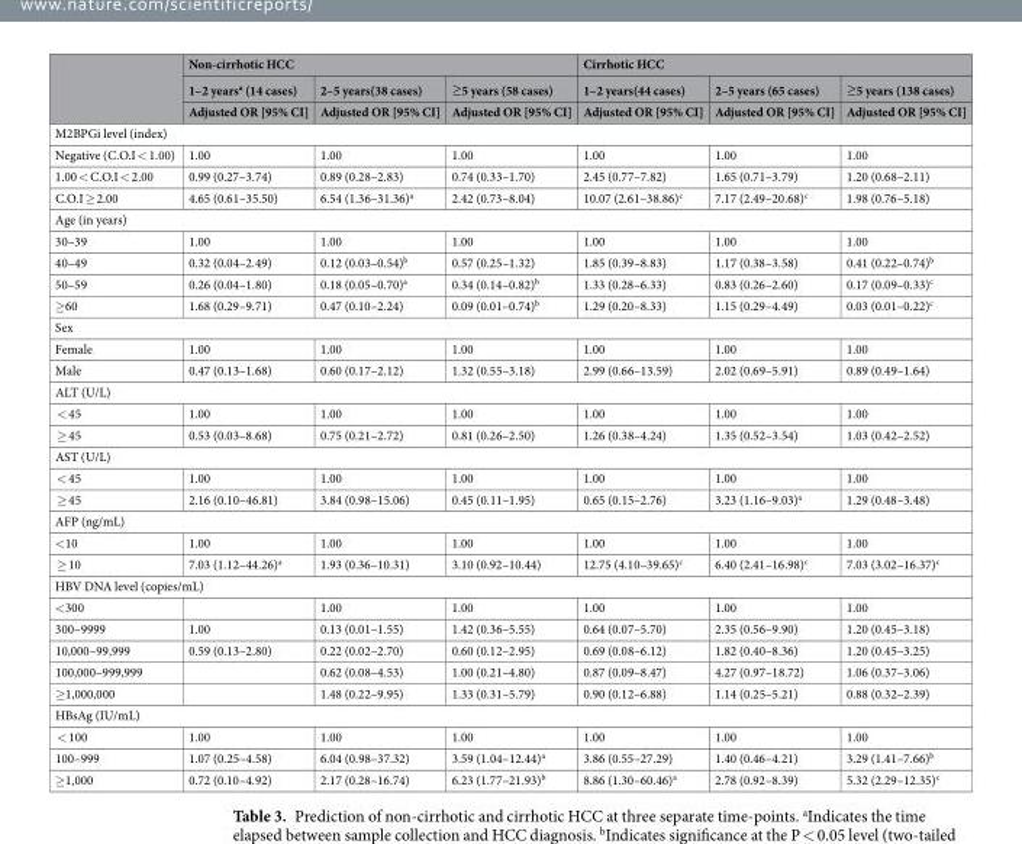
<table><thead><tr><td rowspan="3"></td><td colspan="3">Non-cirrhotic HCC</td><td colspan="3">Cirrhotic HCC</td></tr><tr><td rowspan="2">1–2 years<sup>a</sup> (14 cases) Adjusted OR [95% CI]</td><td rowspan="2">2–5 years(38 cases) Adjusted OR [95% CI]</td><td rowspan="2">≥5 years (58 cases) Adjusted OR [95% CI]</td><td rowspan="2">1–2 years(44 cases) Adjusted OR [95% CI]</td><td rowspan="2">2–5 years (65 cases) Adjusted OR [95% CI]</td><td rowspan="2">≥5 years (138 cases) Adjusted OR [95% CI]</td></tr><tr></tr></thead><tbody><tr><td colspan="7">M2BPGi level (index)</td></tr><tr><td>Negative (C.O.I &lt; 1.00)</td><td>1.00</td><td>1.00</td><td>1.00</td><td>1.00</td><td>1.00</td><td>1.00</td></tr><tr><td>1.00 &lt; C.O.I &lt; 2.00</td><td>0.99 (0.27–3.74)</td><td>0.89 (0.28–2.83)</td><td>0.74 (0.33–1.70)</td><td>2.45 (0.77–7.82)</td><td>1.65 (0.71–3.79)</td><td>1.20 (0.68–2.11)</td></tr><tr><td>C.O.I ≥ 2.00</td><td>4.65 (0.61–35.50)</td><td>6.54 (1.36–31.36)<sup>a</sup></td><td>2.42 (0.73–8.04)</td><td>10.07 (2.61–38.86)<sup>c</sup></td><td>7.17 (2.49–20.68)<sup>c</sup></td><td>1.98 (0.76–5.18)</td></tr><tr><td colspan="7">Age (in years)</td></tr><tr><td>30–39</td><td>1.00</td><td>1.00</td><td>1.00</td><td>1.00</td><td>1.00</td><td>1.00</td></tr><tr><td>40–49</td><td>0.32 (0.04–2.49)</td><td>0.12 (0.03–0.54)<sup>b</sup></td><td>0.57 (0.25–1.32)</td><td>1.85 (0.39–8.83)</td><td>1.17 (0.38–3.58)</td><td>0.41 (0.22–0.74)<sup>b</sup></td></tr><tr><td>50–59</td><td>0.26 (0.04–1.80)</td><td>0.18 (0.05–0.70)<sup>a</sup></td><td>0.34 (0.14–0.82)<sup>b</sup></td><td>1.33 (0.28–6.33)</td><td>0.83 (0.26–2.60)</td><td>0.17 (0.09–0.33)<sup>c</sup></td></tr><tr><td>≥60</td><td>1.68 (0.29–9.71)</td><td>0.47 (0.10–2.24)</td><td>0.09 (0.01–0.74)<sup>b</sup></td><td>1.29 (0.20–8.33)</td><td>1.15 (0.29–4.49)</td><td>0.03 (0.01–0.22)<sup>c</sup></td></tr><tr><td colspan="7">Sex</td></tr><tr><td>Female</td><td>1.00</td><td>1.00</td><td>1.00</td><td>1.00</td><td>1.00</td><td>1.00</td></tr><tr><td>Male</td><td>0.47 (0.13–1.68)</td><td>0.60 (0.17–2.12)</td><td>1.32 (0.55–3.18)</td><td>2.99 (0.66–13.59)</td><td>2.02 (0.69–5.91)</td><td>0.89 (0.49–1.64)</td></tr><tr><td colspan="7">ALT (U/L)</td></tr><tr><td>&lt; 45</td><td>1.00</td><td>1.00</td><td>1.00</td><td>1.00</td><td>1.00</td><td>1.00</td></tr><tr><td>≥ 45</td><td>0.53 (0.03–8.68)</td><td>0.75 (0.21–2.72)</td><td>0.81 (0.26–2.50)</td><td>1.26 (0.38–4.24)</td><td>1.35 (0.52–3.54)</td><td>1.03 (0.42–2.52)</td></tr><tr><td colspan="7">AST (U/L)</td></tr><tr><td>&lt; 45</td><td>1.00</td><td>1.00</td><td>1.00</td><td>1.00</td><td>1.00</td><td>1.00</td></tr><tr><td>≥ 45</td><td>2.16 (0.10–46.81)</td><td>3.84 (0.98–15.06)</td><td>0.45 (0.11–1.95)</td><td>0.65 (0.15–2.76)</td><td>3.23 (1.16–9.03)<sup>a</sup></td><td>1.29 (0.48–3.48)</td></tr><tr><td colspan="7">AFP (ng/mL)</td></tr><tr><td>&lt;10</td><td>1.00</td><td>1.00</td><td>1.00</td><td>1.00</td><td>1.00</td><td>1.00</td></tr><tr><td>≥ 10</td><td>7.03 (1.12–44.26)<sup>a</sup></td><td>1.93 (0.36–10.31)</td><td>3.10 (0.92–10.44)</td><td>12.75 (4.10–39.65)<sup>c</sup></td><td>6.40 (2.41–16.98)<sup>c</sup></td><td>7.03 (3.02–16.37)<sup>c</sup></td></tr><tr><td colspan="7">HBV DNA level (copies/mL)</td></tr><tr><td>&lt;300</td><td></td><td>1.00</td><td>1.00</td><td>1.00</td><td>1.00</td><td>1.00</td></tr><tr><td>300–9999</td><td>1.00</td><td>0.13 (0.01–1.55)</td><td>1.42 (0.36–5.55)</td><td>0.64 (0.07–5.70)</td><td>2.35 (0.56–9.90)</td><td>1.20 (0.45–3.18)</td></tr><tr><td>10,000–99,999</td><td>0.59 (0.13–2.80)</td><td>0.22 (0.02–2.70)</td><td>0.60 (0.12–2.95)</td><td>0.69 (0.08–6.12)</td><td>1.82 (0.40–8.36)</td><td>1.20 (0.45–3.25)</td></tr><tr><td>100,000–999,999</td><td></td><td>0.62 (0.08–4.53)</td><td>1.00 (0.21–4.80)</td><td>0.87 (0.09–8.47)</td><td>4.27 (0.97–18.72)</td><td>1.06 (0.37–3.06)</td></tr><tr><td>≥1,000,000</td><td></td><td>1.48 (0.22–9.95)</td><td>1.33 (0.31–5.79)</td><td>0.90 (0.12–6.88)</td><td>1.14 (0.25–5.21)</td><td>0.88 (0.32–2.39)</td></tr><tr><td colspan="7">HBsAg (IU/mL)</td></tr><tr><td>&lt; 100</td><td>1.00</td><td>1.00</td><td>1.00</td><td>1.00</td><td>1.00</td><td>1.00</td></tr><tr><td>100–999</td><td>1.07 (0.25–4.58)</td><td>6.04 (0.98–37.32)</td><td>3.59 (1.04–12.44)<sup>a</sup></td><td>3.86 (0.55–27.29)</td><td>1.40 (0.46–4.21)</td><td>3.29 (1.41–7.66)<sup>b</sup></td></tr><tr><td>≥1,000</td><td>0.72 (0.10–4.92)</td><td>2.17 (0.28–16.74)</td><td>6.23 (1.77–21.93)<sup>b</sup></td><td>8.86 (1.30–60.46)<sup>a</sup></td><td>2.78 (0.92–8.39)</td><td>5.32 (2.29–12.35)<sup>c</sup></td></tr></tbody></table>